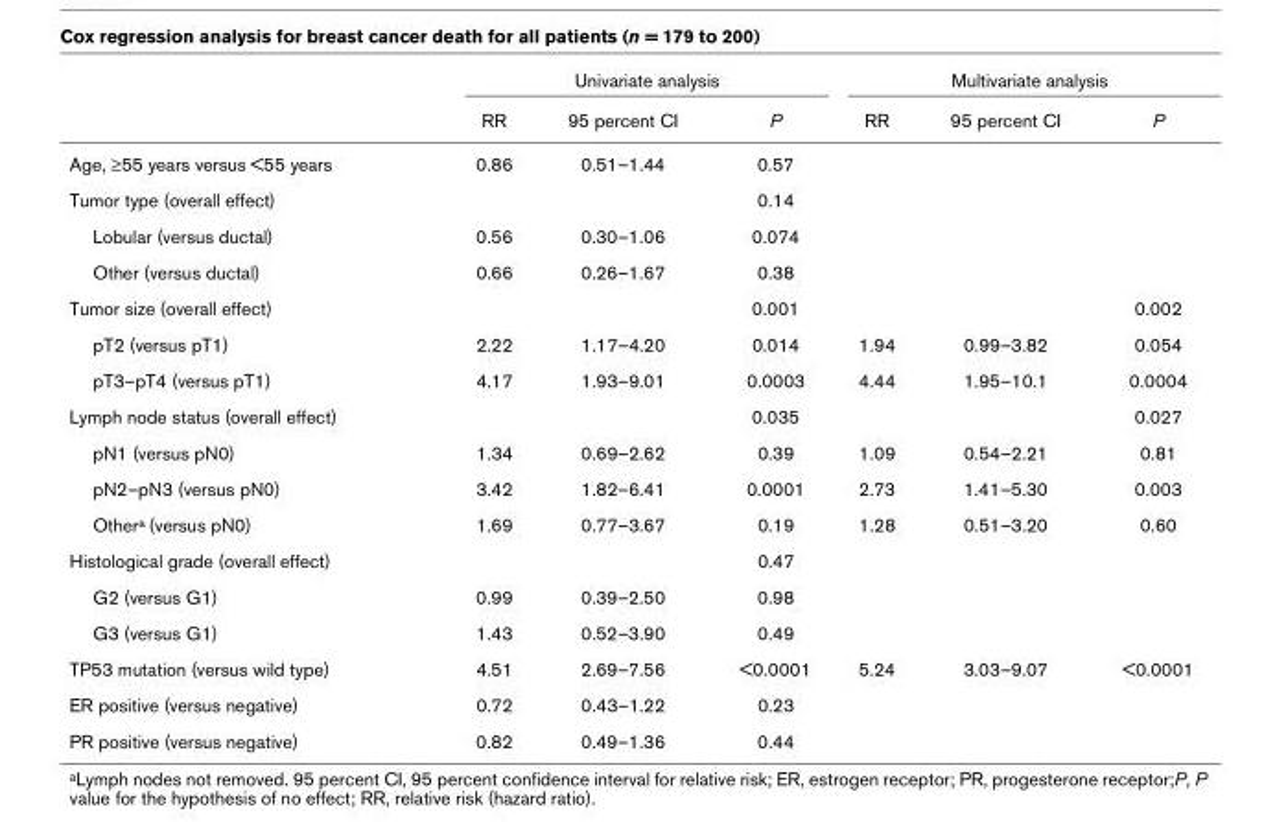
<table><thead><tr><td rowspan="2"></td><td colspan="3">Univariate analysis</td><td colspan="3">Multivariate analysis</td></tr><tr><td>RR</td><td>95 percent CI</td><td>P</td><td>RR</td><td>95 percent CI</td><td>P</td></tr></thead><tbody><tr><td>Age, ≥55 years versus &lt;55 years</td><td>0.86</td><td>0.51–1.44</td><td>0.57</td><td></td><td></td><td></td></tr><tr><td>Tumor type (overall effect)</td><td></td><td></td><td>0.14</td><td></td><td></td><td></td></tr><tr><td>Lobular (versus ductal)</td><td>0.56</td><td>0.30–1.06</td><td>0.074</td><td></td><td></td><td></td></tr><tr><td>Other (versus ductal)</td><td>0.66</td><td>0.26–1.67</td><td>0.38</td><td></td><td></td><td></td></tr><tr><td>Tumor size (overall effect)</td><td></td><td></td><td>0.001</td><td></td><td></td><td>0.002</td></tr><tr><td>pT2 (versus pT1)</td><td>2.22</td><td>1.17–4.20</td><td>0.014</td><td>1.94</td><td>0.99–3.82</td><td>0.054</td></tr><tr><td>pT3–pT4 (versus pT1)</td><td>4.17</td><td>1.93–9.01</td><td>0.0003</td><td>4.44</td><td>1.95–10.1</td><td>0.0004</td></tr><tr><td>Lymph node status (overall effect)</td><td></td><td></td><td>0.035</td><td></td><td></td><td>0.027</td></tr><tr><td>pN1 (versus pN0)</td><td>1.34</td><td>0.69–2.62</td><td>0.39</td><td>1.09</td><td>0.54–2.21</td><td>0.81</td></tr><tr><td>pN2–pN3 (versus pN0)</td><td>3.42</td><td>1.82–6.41</td><td>0.0001</td><td>2.73</td><td>1.41–5.30</td><td>0.003</td></tr><tr><td>Other<sup>a</sup> (versus pN0)</td><td>1.69</td><td>0.77–3.67</td><td>0.19</td><td>1.28</td><td>0.51–3.20</td><td>0.60</td></tr><tr><td>Histological grade (overall effect)</td><td></td><td></td><td>0.47</td><td></td><td></td><td></td></tr><tr><td>G2 (versus G1)</td><td>0.99</td><td>0.39–2.50</td><td>0.98</td><td></td><td></td><td></td></tr><tr><td>G3 (versus G1)</td><td>1.43</td><td>0.52–3.90</td><td>0.49</td><td></td><td></td><td></td></tr><tr><td>TP53 mutation (versus wild type)</td><td>4.51</td><td>2.69–7.56</td><td>&lt;0.0001</td><td>5.24</td><td>3.03–9.07</td><td>&lt;0.0001</td></tr><tr><td>ER positive (versus negative)</td><td>0.72</td><td>0.43–1.22</td><td>0.23</td><td></td><td></td><td></td></tr><tr><td>PR positive (versus negative)</td><td>0.82</td><td>0.49–1.36</td><td>0.44</td><td></td><td></td><td></td></tr></tbody></table>